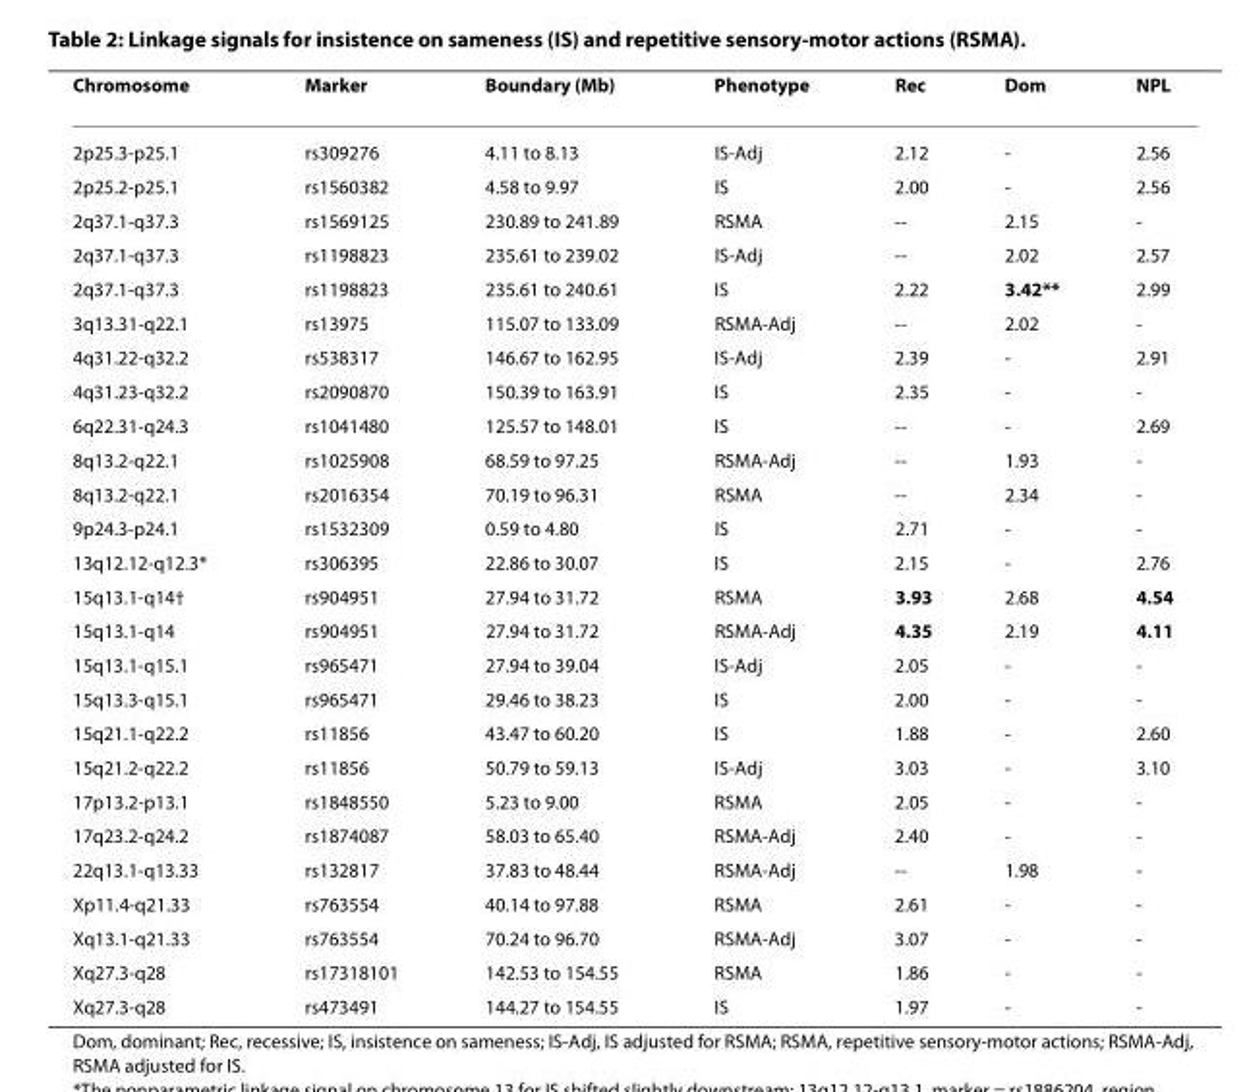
<table><thead><tr><td>Chromosome</td><td>Marker</td><td>Boundary (Mb)</td><td>Phenotype</td><td>Rec</td><td>Dom</td><td>NPL</td></tr></thead><tbody><tr><td>2p25.3-p25.1</td><td>rs309276</td><td>4.11 to 8.13</td><td>IS-Adj</td><td>2.12</td><td>-</td><td>2.56</td></tr><tr><td>2p25.2-p25.1</td><td>rs1560382</td><td>4.58 to 9.97</td><td>IS</td><td>2.00</td><td>-</td><td>2.56</td></tr><tr><td>2q37.1-q37.3</td><td>rs1569125</td><td>230.89 to 241.89</td><td>RSMA</td><td>--</td><td>2.15</td><td>-</td></tr><tr><td>2q37.1-q37.3</td><td>rs1198823</td><td>235.61 to 239.02</td><td>IS-Adj</td><td>--</td><td>2.02</td><td>2.57</td></tr><tr><td>2q37.1-q37.3</td><td>rs1198823</td><td>235.61 to 240.61</td><td>IS</td><td>2.22</td><td>3.42**</td><td>2.99</td></tr><tr><td>3q13.31-q22.1</td><td>rs13975</td><td>115.07 to 133.09</td><td>RSMA-Adj</td><td>--</td><td>2.02</td><td>-</td></tr><tr><td>4q31.22-q32.2</td><td>rs538317</td><td>146.67 to 162.95</td><td>IS-Adj</td><td>2.39</td><td>-</td><td>2.91</td></tr><tr><td>4q31.23-q32.2</td><td>rs2090870</td><td>150.39 to 163.91</td><td>IS</td><td>2.35</td><td>-</td><td>-</td></tr><tr><td>6q22.31-q24.3</td><td>rs1041480</td><td>125.57 to 148.01</td><td>IS</td><td>--</td><td>-</td><td>2.69</td></tr><tr><td>8q13.2-q22.1</td><td>rs1025908</td><td>68.59 to 97.25</td><td>RSMA-Adj</td><td>--</td><td>1.93</td><td>-</td></tr><tr><td>8q13.2-q22.1</td><td>rs2016354</td><td>70.19 to 96.31</td><td>RSMA</td><td>--</td><td>2.34</td><td>-</td></tr><tr><td>9p24.3-p24.1</td><td>rs1532309</td><td>0.59 to 4.80</td><td>IS</td><td>2.71</td><td>-</td><td>-</td></tr><tr><td>13q12.12-q12.3*</td><td>rs306395</td><td>22.86 to 30.07</td><td>IS</td><td>2.15</td><td>-</td><td>2.76</td></tr><tr><td>15q13.1-q14†</td><td>rs904951</td><td>27.94 to 31.72</td><td>RSMA</td><td>3.93</td><td>2.68</td><td>4.54</td></tr><tr><td>15q13.1-q14</td><td>rs904951</td><td>27.94 to 31.72</td><td>RSMA-Adj</td><td>4.35</td><td>2.19</td><td>4.11</td></tr><tr><td>15q13.1-q15.1</td><td>rs965471</td><td>27.94 to 39.04</td><td>IS-Adj</td><td>2.05</td><td>-</td><td>-</td></tr><tr><td>15q13.3-q15.1</td><td>rs965471</td><td>29.46 to 38.23</td><td>IS</td><td>2.00</td><td>-</td><td>-</td></tr><tr><td>15q21.1-q22.2</td><td>rs11856</td><td>43.47 to 60.20</td><td>IS</td><td>1.88</td><td>-</td><td>2.60</td></tr><tr><td>15q21.2-q22.2</td><td>rs11856</td><td>50.79 to 59.13</td><td>IS-Adj</td><td>3.03</td><td>-</td><td>3.10</td></tr><tr><td>17p13.2-p13.1</td><td>rs1848550</td><td>5.23 to 9.00</td><td>RSMA</td><td>2.05</td><td>-</td><td>-</td></tr><tr><td>17q23.2-q24.2</td><td>rs1874087</td><td>58.03 to 65.40</td><td>RSMA-Adj</td><td>2.40</td><td>-</td><td>-</td></tr><tr><td>22q13.1-q13.33</td><td>rs132817</td><td>37.83 to 48.44</td><td>RSMA-Adj</td><td>--</td><td>1.98</td><td>-</td></tr><tr><td>Xp11.4-q21.33</td><td>rs763554</td><td>40.14 to 97.88</td><td>RSMA</td><td>2.61</td><td>-</td><td>-</td></tr><tr><td>Xq13.1-q21.33</td><td>rs763554</td><td>70.24 to 96.70</td><td>RSMA-Adj</td><td>3.07</td><td>-</td><td>-</td></tr><tr><td>Xq27.3-q28</td><td>rs17318101</td><td>142.53 to 154.55</td><td>RSMA</td><td>1.86</td><td>-</td><td>-</td></tr><tr><td>Xq27.3-q28</td><td>rs473491</td><td>144.27 to 154.55</td><td>IS</td><td>1.97</td><td>-</td><td>-</td></tr></tbody></table>